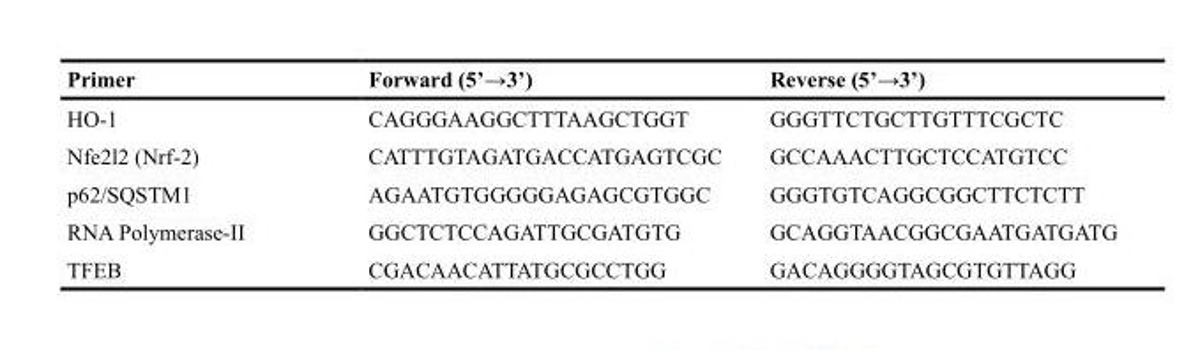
<table><thead><tr><td>Primer</td><td>Forward (5’→3’)</td><td>Reverse (5’→3’)</td></tr></thead><tbody><tr><td>HO-1</td><td>CAGGGAAGGCTTTAAGCTGGT</td><td>GGGTTCTGCTTGTTTCGCTC</td></tr><tr><td>Nfe2l2 (Nrf-2)</td><td>CATTTGTAGATGACCATGAGTCGC</td><td>GCCAAACTTGCTCCATGTCC</td></tr><tr><td>p62/SQSTM1</td><td>AGAATGTGGGGGAGAGCGTGGC</td><td>GGGTGTCAGGCGGCTTCTCTT</td></tr><tr><td>RNA Polymerase-II</td><td>GGCTCTCCAGATTGCGATGTG</td><td>GCAGGTAACGGCGAATGATGATG</td></tr><tr><td>TFEB</td><td>CGACAACATTATGCGCCTGG</td><td>GACAGGGGTAGCGTGTTAGG</td></tr></tbody></table>